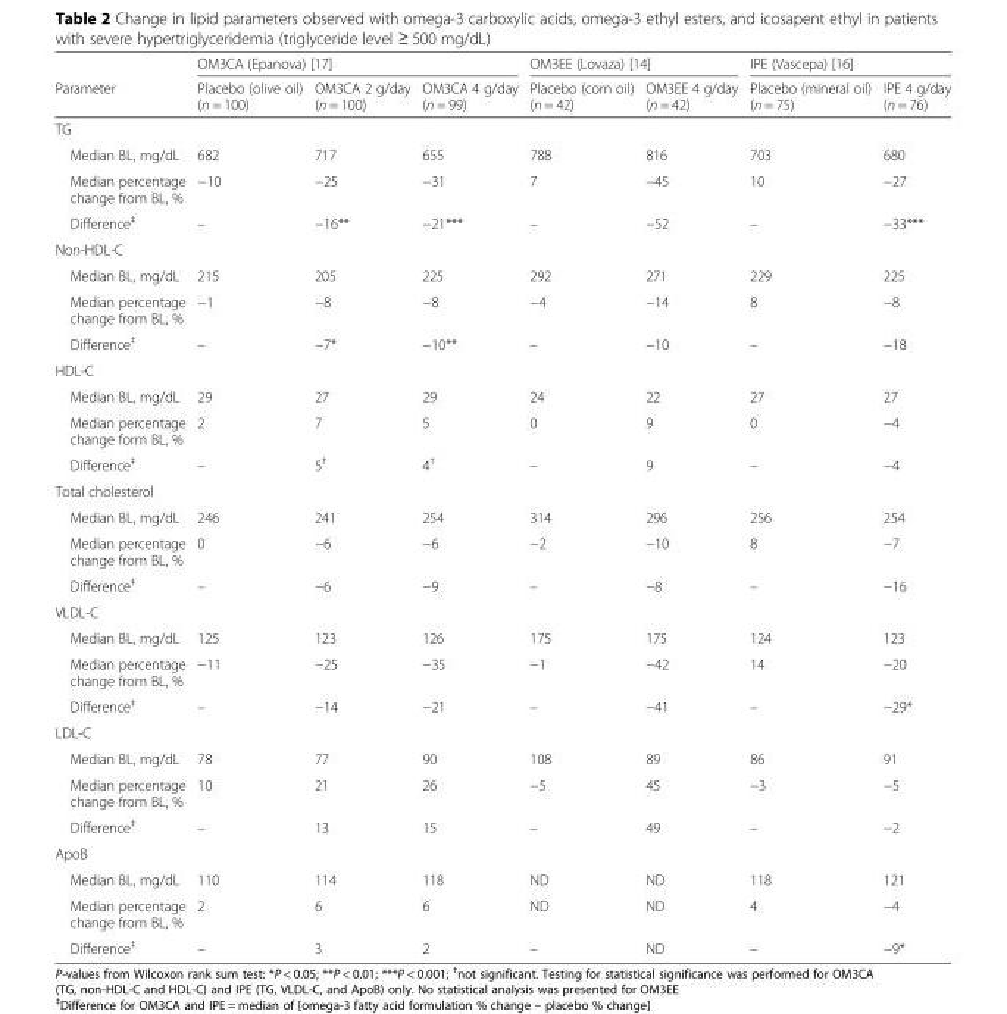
<table><thead><tr><td rowspan="2">Parameter</td><td colspan="3">OM3CA (Epanova) [17]</td><td colspan="2">OM3EE (Lovaza) [14]</td><td colspan="2">IPE (Vascepa) [16]</td></tr><tr><td>Placebo (olive oil) (n = 100)</td><td>OM3CA 2 g/day (n = 100)</td><td>OM3CA 4 g/day (n = 99)</td><td>Placebo (corn oil) (n = 42)</td><td>OM3EE 4 g/day (n = 42)</td><td>Placebo (mineral oil) (n = 75)</td><td>IPE 4 g/day (n = 76)</td></tr></thead><tbody><tr><td colspan="8">TG</td></tr><tr><td>Median BL, mg/dL</td><td>682</td><td>717</td><td>655</td><td>788</td><td>816</td><td>703</td><td>680</td></tr><tr><td>Median percentage change from BL, %</td><td>−10</td><td>−25</td><td>−31</td><td>7</td><td>−45</td><td>10</td><td>−27</td></tr><tr><td>Difference<sup>‡</sup></td><td>–</td><td>−16**</td><td>−21***</td><td>–</td><td>−52</td><td>–</td><td>−33***</td></tr><tr><td colspan="8">Non-HDL-C</td></tr><tr><td>Median BL, mg/dL</td><td>215</td><td>205</td><td>225</td><td>292</td><td>271</td><td>229</td><td>225</td></tr><tr><td>Median percentage change from BL, %</td><td>−1</td><td>−8</td><td>−8</td><td>−4</td><td>−14</td><td>8</td><td>−8</td></tr><tr><td>Difference<sup>‡</sup></td><td>–</td><td>−7*</td><td>−10**</td><td>–</td><td>−10</td><td>–</td><td>−18</td></tr><tr><td colspan="8">HDL-C</td></tr><tr><td>Median BL, mg/dL</td><td>29</td><td>27</td><td>29</td><td>24</td><td>22</td><td>27</td><td>27</td></tr><tr><td>Median percentage change form BL, %</td><td>2</td><td>7</td><td>5</td><td>0</td><td>9</td><td>0</td><td>−4</td></tr><tr><td>Difference<sup>‡</sup></td><td>–</td><td>5<sup>†</sup></td><td>4<sup>†</sup></td><td>–</td><td>9</td><td>–</td><td>−4</td></tr><tr><td colspan="8">Total cholesterol</td></tr><tr><td>Median BL, mg/dL</td><td>246</td><td>241</td><td>254</td><td>314</td><td>296</td><td>256</td><td>254</td></tr><tr><td>Median percentage change from BL, %</td><td>0</td><td>−6</td><td>−6</td><td>−2</td><td>−10</td><td>8</td><td>−7</td></tr><tr><td>Difference<sup>‡</sup></td><td>–</td><td>−6</td><td>−9</td><td>–</td><td>−8</td><td>–</td><td>−16</td></tr><tr><td colspan="8">VLDL-C</td></tr><tr><td>Median BL, mg/dL</td><td>125</td><td>123</td><td>126</td><td>175</td><td>175</td><td>124</td><td>123</td></tr><tr><td>Median percentage change from BL, %</td><td>−11</td><td>−25</td><td>−35</td><td>−1</td><td>−42</td><td>14</td><td>−20</td></tr><tr><td>Difference<sup>‡</sup></td><td>–</td><td>−14</td><td>−21</td><td>–</td><td>−41</td><td>–</td><td>−29*</td></tr><tr><td colspan="8">LDL-C</td></tr><tr><td>Median BL, mg/dL</td><td>78</td><td>77</td><td>90</td><td>108</td><td>89</td><td>86</td><td>91</td></tr><tr><td>Median percentage change from BL, %</td><td>10</td><td>21</td><td>26</td><td>−5</td><td>45</td><td>−3</td><td>−5</td></tr><tr><td>Difference<sup>‡</sup></td><td>–</td><td>13</td><td>15</td><td>–</td><td>49</td><td>–</td><td>−2</td></tr><tr><td colspan="8">ApoB</td></tr><tr><td>Median BL, mg/dL</td><td>110</td><td>114</td><td>118</td><td>ND</td><td>ND</td><td>118</td><td>121</td></tr><tr><td>Median percentage change from BL, %</td><td>2</td><td>6</td><td>6</td><td>ND</td><td>ND</td><td>4</td><td>−4</td></tr><tr><td>Difference<sup>‡</sup></td><td>–</td><td>3</td><td>2</td><td>–</td><td>ND</td><td>–</td><td>−9*</td></tr></tbody></table>